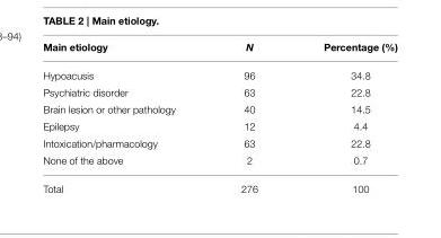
<table><thead><tr><td>Main etiology</td><td>N</td><td>Percentage (%)</td></tr></thead><tbody><tr><td>Hypoacusis</td><td>96</td><td>34.8</td></tr><tr><td>Psychiatric disorder</td><td>63</td><td>22.8</td></tr><tr><td>Brain lesion or other pathology</td><td>40</td><td>14.5</td></tr><tr><td>Epilepsy</td><td>12</td><td>4.4</td></tr><tr><td>Intoxication/pharmacology</td><td>63</td><td>22.8</td></tr><tr><td>None of the above</td><td>2</td><td>0.7</td></tr><tr><td>Total</td><td>276</td><td>100</td></tr></tbody></table>